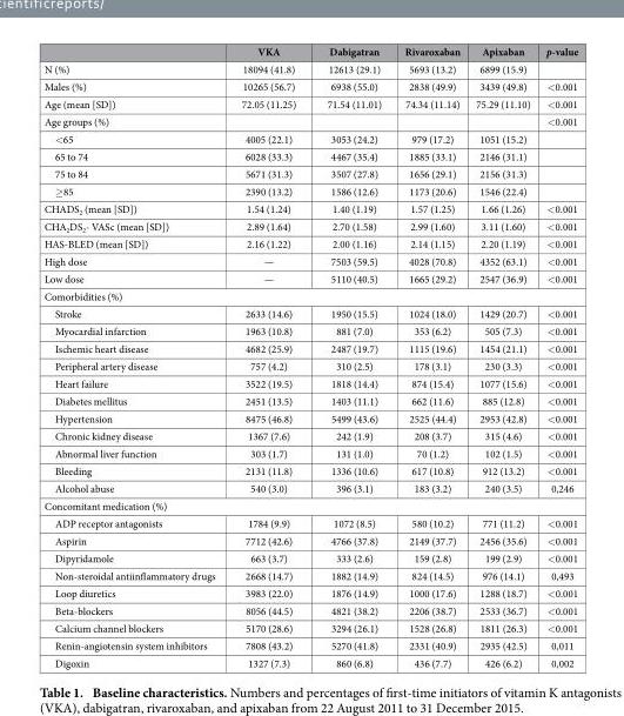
<table><thead><tr><td></td><td>VKA</td><td>Dabigatran</td><td>Rivaroxaban</td><td>Apixaban</td><td>p-value</td></tr></thead><tbody><tr><td>N (%)</td><td>18094 (41.8)</td><td>12613 (29.1)</td><td>5693 (13.2)</td><td>6899 (15.9)</td><td></td></tr><tr><td>Males (%)</td><td>10265 (56.7)</td><td>6938 (55.0)</td><td>2838 (49.9)</td><td>3439 (49.8)</td><td>&lt; 0.001</td></tr><tr><td>Age (mean [SD])</td><td>72.05 (11.25)</td><td>71.54 (11.01)</td><td>74.34 (11.14)</td><td>75.29 (11.10)</td><td>&lt; 0.001</td></tr><tr><td>Age groups (%)</td><td></td><td></td><td></td><td></td><td>&lt; 0.001</td></tr><tr><td>&lt; 65</td><td>4005 (22.1)</td><td>3053 (24.2)</td><td>979 (17.2)</td><td>1051 (15.2)</td><td></td></tr><tr><td>65 to 74</td><td>6028 (33.3)</td><td>4467 (35.4)</td><td>1885 (33.1)</td><td>2146 (31.1)</td><td></td></tr><tr><td>75 to 84</td><td>5671 (31.3)</td><td>3507 (27.8)</td><td>1656 (29.1)</td><td>2156 (31.3)</td><td></td></tr><tr><td>≥ 85</td><td>2390 (13.2)</td><td>1586 (12.6)</td><td>1173 (20.6)</td><td>1546 (22.4)</td><td></td></tr><tr><td>CHADS<sub>2</sub> (mean [SD])</td><td>1.54 (1.24)</td><td>1.40 (1.19)</td><td>1.57 (1.25)</td><td>1.66 (1.26)</td><td>&lt; 0.001</td></tr><tr><td>CHA<sub>2</sub>DS<sub>2</sub>- VASc (mean [SD])</td><td>2.89 (1.64)</td><td>2.70 (1.58)</td><td>2.99 (1.60)</td><td>3.11 (1.60)</td><td>&lt; 0.001</td></tr><tr><td>HAS-BLED (mean [SD])</td><td>2.16 (1.22)</td><td>2.00 (1.16)</td><td>2.14 (1.15)</td><td>2.20 (1.19)</td><td>&lt; 0.001</td></tr><tr><td>High dose</td><td>—</td><td>7503 (59.5)</td><td>4028 (70.8)</td><td>4352 (63.1)</td><td>&lt; 0.001</td></tr><tr><td>Low dose</td><td>—</td><td>5110 (40.5)</td><td>1665 (29.2)</td><td>2547 (36.9)</td><td>&lt; 0.001</td></tr><tr><td colspan="6">Comorbidities (%)</td></tr><tr><td>Stroke</td><td>2633 (14.6)</td><td>1950 (15.5)</td><td>1024 (18.0)</td><td>1429 (20.7)</td><td>&lt; 0.001</td></tr><tr><td>Myocardial infarction</td><td>1963 (10.8)</td><td>881 (7.0)</td><td>353 (6.2)</td><td>505 (7.3)</td><td>&lt; 0.001</td></tr><tr><td>Ischemic heart disease</td><td>4682 (25.9)</td><td>2487 (19.7)</td><td>1115 (19.6)</td><td>1454 (21.1)</td><td>&lt; 0.001</td></tr><tr><td>Peripheral artery disease</td><td>757 (4.2)</td><td>310 (2.5)</td><td>178 (3.1)</td><td>230 (3.3)</td><td>&lt; 0.001</td></tr><tr><td>Heart failure</td><td>3522 (19.5)</td><td>1818 (14.4)</td><td>874 (15.4)</td><td>1077 (15.6)</td><td>&lt; 0.001</td></tr><tr><td>Diabetes mellitus</td><td>2451 (13.5)</td><td>1403 (11.1)</td><td>662 (11.6)</td><td>885 (12.8)</td><td>&lt; 0.001</td></tr><tr><td>Hypertension</td><td>8475 (46.8)</td><td>5499 (43.6)</td><td>2525 (44.4)</td><td>2953 (42.8)</td><td>&lt; 0.001</td></tr><tr><td>Chronic kidney disease</td><td>1367 (7.6)</td><td>242 (1.9)</td><td>208 (3.7)</td><td>315 (4.6)</td><td>&lt; 0.001</td></tr><tr><td>Abnormal liver function</td><td>303 (1.7)</td><td>131 (1.0)</td><td>70 (1.2)</td><td>102 (1.5)</td><td>&lt; 0.001</td></tr><tr><td>Bleeding</td><td>2131 (11.8)</td><td>1336 (10.6)</td><td>617 (10.8)</td><td>912 (13.2)</td><td>&lt; 0.001</td></tr><tr><td>Alcohol abuse</td><td>540 (3.0)</td><td>396 (3.1)</td><td>183 (3.2)</td><td>240 (3.5)</td><td>0,246</td></tr><tr><td colspan="6">Concomitant medication (%)</td></tr><tr><td>ADP receptor antagonists</td><td>1784 (9.9)</td><td>1072 (8.5)</td><td>580 (10.2)</td><td>771 (11.2)</td><td>&lt; 0.001</td></tr><tr><td>Aspirin</td><td>7712 (42.6)</td><td>4766 (37.8)</td><td>2149 (37.7)</td><td>2456 (35.6)</td><td>&lt; 0.001</td></tr><tr><td>Dipyridamole</td><td>663 (3.7)</td><td>333 (2.6)</td><td>159 (2.8)</td><td>199 (2.9)</td><td>&lt; 0.001</td></tr><tr><td>Non-steroidal antiinflammatory drugs</td><td>2668 (14.7)</td><td>1882 (14.9)</td><td>824 (14.5)</td><td>976 (14.1)</td><td>0,493</td></tr><tr><td>Loop diuretics</td><td>3983 (22.0)</td><td>1876 (14.9)</td><td>1000 (17.6)</td><td>1288 (18.7)</td><td>&lt; 0.001</td></tr><tr><td>Beta-blockers</td><td>8056 (44.5)</td><td>4821 (38.2)</td><td>2206 (38.7)</td><td>2533 (36.7)</td><td>&lt; 0.001</td></tr><tr><td>Calcium channel blockers</td><td>5170 (28.6)</td><td>3294 (26.1)</td><td>1528 (26.8)</td><td>1811 (26.3)</td><td>&lt; 0.001</td></tr><tr><td>Renin-angiotensin system inhibitors</td><td>7808 (43.2)</td><td>5270 (41.8)</td><td>2331 (40.9)</td><td>2935 (42.5)</td><td>0,011</td></tr><tr><td>Digoxin</td><td>1327 (7.3)</td><td>860 (6.8)</td><td>436 (7.7)</td><td>426 (6.2)</td><td>0,002</td></tr></tbody></table>